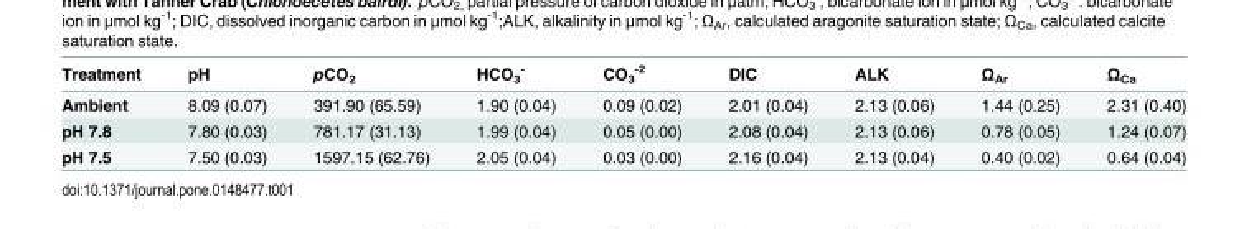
<table><thead><tr><td>Treatment</td><td>pH</td><td>pCO<sub>2</sub></td><td>HCO<sub>3</sub> <sup>-</sup></td><td>CO<sub>3</sub> <sup>-2</sup></td><td>DIC</td><td>ALK</td><td>Ω<sub>Ar</sub></td><td>Ω<sub>Ca</sub></td></tr></thead><tbody><tr><td>Ambient</td><td>8.09 (0.07)</td><td>391.90 (65.59)</td><td>1.90 (0.04)</td><td>0.09 (0.02)</td><td>2.01 (0.04)</td><td>2.13 (0.06)</td><td>1.44 (0.25)</td><td>2.31 (0.40)</td></tr><tr><td>pH 7.8</td><td>7.80 (0.03)</td><td>781.17 (31.13)</td><td>1.99 (0.04)</td><td>0.05 (0.00)</td><td>2.08 (0.04)</td><td>2.13 (0.06)</td><td>0.78 (0.05)</td><td>1.24 (0.07)</td></tr><tr><td>pH 7.5</td><td>7.50 (0.03)</td><td>1597.15 (62.76)</td><td>2.05 (0.04)</td><td>0.03 (0.00)</td><td>2.16 (0.04)</td><td>2.13 (0.04)</td><td>0.40 (0.02)</td><td>0.64 (0.04)</td></tr></tbody></table>